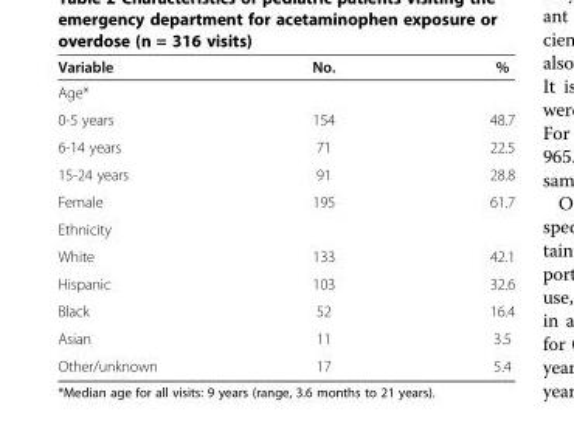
<table><thead><tr><td>Variable</td><td>No.</td><td>%</td></tr></thead><tbody><tr><td colspan="3">Age*</td></tr><tr><td>0-5 years</td><td>154</td><td>48.7</td></tr><tr><td>6-14 years</td><td>71</td><td>22.5</td></tr><tr><td>15-24 years</td><td>91</td><td>28.8</td></tr><tr><td>Female</td><td>195</td><td>61.7</td></tr><tr><td colspan="3">Ethnicity</td></tr><tr><td>White</td><td>133</td><td>42.1</td></tr><tr><td>Hispanic</td><td>103</td><td>32.6</td></tr><tr><td>Black</td><td>52</td><td>16.4</td></tr><tr><td>Asian</td><td>11</td><td>3.5</td></tr><tr><td>Other/unknown</td><td>17</td><td>5.4</td></tr></tbody></table>